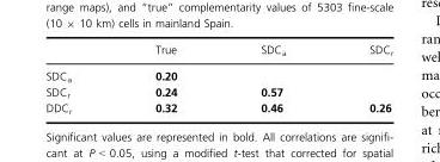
<table><thead><tr><td></td><td>True</td><td>SDC<sub>a</sub></td><td>SDC<sub>r</sub></td></tr></thead><tbody><tr><td>SDC<sub>a</sub></td><td>0.20</td><td></td><td></td></tr><tr><td>SDC<sub>r</sub></td><td>0.24</td><td>0.57</td><td></td></tr><tr><td>DDC<sub>r</sub></td><td>0.32</td><td>0.46</td><td>0.26</td></tr></tbody></table>